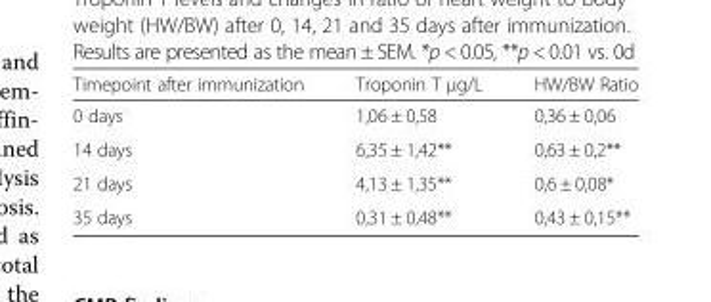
<table><thead><tr><td>Timepoint after immunization</td><td>Troponin T μg/L</td><td>HW/BW Ratio</td></tr></thead><tbody><tr><td>0 days</td><td>1,06 ± 0,58</td><td>0,36 ± 0,06</td></tr><tr><td>14 days</td><td>6,35 ± 1,42**</td><td>0,63 ± 0,2**</td></tr><tr><td>21 days</td><td>4,13 ± 1,35**</td><td>0,6 ± 0,08*</td></tr><tr><td>35 days</td><td>0,31 ± 0,48**</td><td>0,43 ± 0,15**</td></tr></tbody></table>